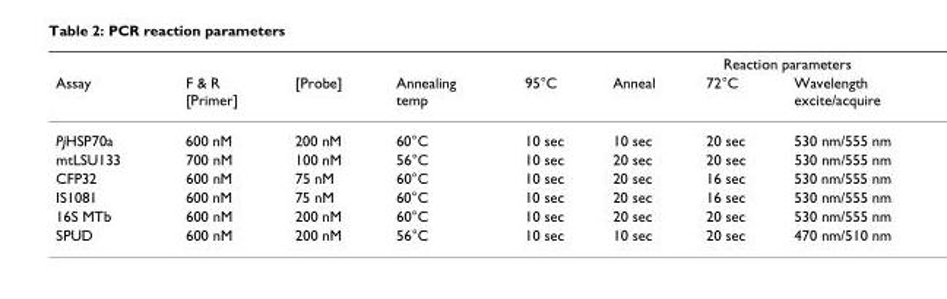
<table><thead><tr><td rowspan="2">Assay</td><td rowspan="2">F &amp; R [Primer]</td><td rowspan="2">[Probe]</td><td rowspan="2">Annealing temp</td><td rowspan="2">95°C</td><td colspan="3">Reaction parameters</td></tr><tr><td>Anneal</td><td>72°C</td><td>Wavelength excite/acquire</td></tr></thead><tbody><tr><td>PjHSP70a</td><td>600 nM</td><td>200 nM</td><td>60°C</td><td>10 sec</td><td>10 sec</td><td>20 sec</td><td>530 nm/555 nm</td></tr><tr><td>mtLSU133</td><td>700 nM</td><td>100 nM</td><td>56°C</td><td>10 sec</td><td>20 sec</td><td>20 sec</td><td>530 nm/555 nm</td></tr><tr><td>CFP32</td><td>600 nM</td><td>75 nM</td><td>60°C</td><td>10 sec</td><td>20 sec</td><td>16 sec</td><td>530 nm/555 nm</td></tr><tr><td>IS1081</td><td>600 nM</td><td>75 nM</td><td>60°C</td><td>10 sec</td><td>20 sec</td><td>16 sec</td><td>530 nm/555 nm</td></tr><tr><td>16S MTb</td><td>600 nM</td><td>200 nM</td><td>60°C</td><td>10 sec</td><td>20 sec</td><td>20 sec</td><td>530 nm/555 nm</td></tr><tr><td>SPUD</td><td>600 nM</td><td>200 nM</td><td>56°C</td><td>10 sec</td><td>10 sec</td><td>20 sec</td><td>470 nm/510 nm</td></tr></tbody></table>